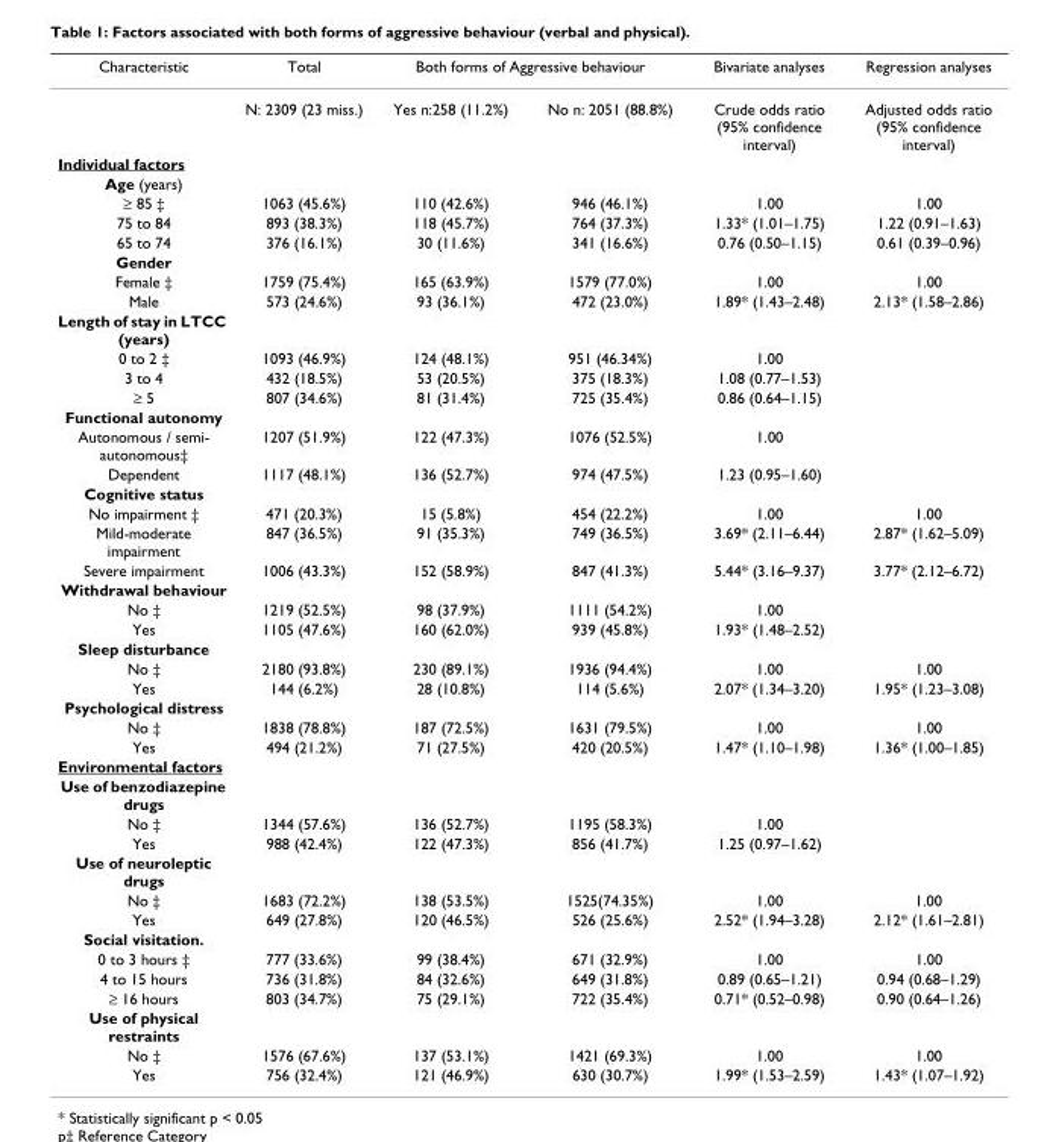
<table><thead><tr><td rowspan="2">Characteristic</td><td rowspan="2">Total N: 2309 (23 miss.)</td><td colspan="2">Both forms of Aggressive behaviour</td><td rowspan="2">Bivariate analyses Crude odds ratio (95% confidence interval)</td><td rowspan="2">Regression analyses Adjusted odds ratio (95% confidence interval)</td></tr><tr><td>Yes n:258 (11.2%)</td><td>No n: 2051 (88.8%)</td></tr></thead><tbody><tr><td colspan="6">Individual factors</td></tr><tr><td colspan="6">Age (years)</td></tr><tr><td>≥ 85 ‡</td><td>1063 (45.6%)</td><td>110 (42.6%)</td><td>946 (46.1%)</td><td>1.00</td><td>1.00</td></tr><tr><td>75 to 84</td><td>893 (38.3%)</td><td>118 (45.7%)</td><td>764 (37.3%)</td><td>1.33* (1.01–1.75)</td><td>1.22 (0.91–1.63)</td></tr><tr><td>65 to 74</td><td>376 (16.1%)</td><td>30 (11.6%)</td><td>341 (16.6%)</td><td>0.76 (0.50–1.15)</td><td>0.61 (0.39–0.96)</td></tr><tr><td colspan="6">Gender</td></tr><tr><td>Female ‡</td><td>1759 (75.4%)</td><td>165 (63.9%)</td><td>1579 (77.0%)</td><td>1.00</td><td>1.00</td></tr><tr><td>Male</td><td>573 (24.6%)</td><td>93 (36.1%)</td><td>472 (23.0%)</td><td>1.89* (1.43–2.48)</td><td>2.13* (1.58–2.86)</td></tr><tr><td colspan="6">Length of stay in LTCC (years)</td></tr><tr><td>0 to 2 ‡</td><td>1093 (46.9%)</td><td>124 (48.1%)</td><td>951 (46.34%)</td><td>1.00</td><td></td></tr><tr><td>3 to 4</td><td>432 (18.5%)</td><td>53 (20.5%)</td><td>375 (18.3%)</td><td>1.08 (0.77–1.53)</td><td></td></tr><tr><td>≥ 5</td><td>807 (34.6%)</td><td>81 (31.4%)</td><td>725 (35.4%)</td><td>0.86 (0.64–1.15)</td><td></td></tr><tr><td colspan="6">Functional autonomy</td></tr><tr><td>Autonomous / semi- autonomous‡</td><td>1207 (51.9%)</td><td>122 (47.3%)</td><td>1076 (52.5%)</td><td>1.00</td><td></td></tr><tr><td>Dependent</td><td>1117 (48.1%)</td><td>136 (52.7%)</td><td>974 (47.5%)</td><td>1.23 (0.95–1.60)</td><td></td></tr><tr><td colspan="6">Cognitive status</td></tr><tr><td>No impairment ‡</td><td>471 (20.3%)</td><td>15 (5.8%)</td><td>454 (22.2%)</td><td>1.00</td><td>1.00</td></tr><tr><td>Mild-moderate impairment</td><td>847 (36.5%)</td><td>91 (35.3%)</td><td>749 (36.5%)</td><td>3.69* (2.11–6.44)</td><td>2.87* (1.62–5.09)</td></tr><tr><td>Severe impairment</td><td>1006 (43.3%)</td><td>152 (58.9%)</td><td>847 (41.3%)</td><td>5.44* (3.16–9.37)</td><td>3.77* (2.12–6.72)</td></tr><tr><td colspan="6">Withdrawal behaviour</td></tr><tr><td>No ‡</td><td>1219 (52.5%)</td><td>98 (37.9%)</td><td>1111 (54.2%)</td><td>1.00</td><td></td></tr><tr><td>Yes</td><td>1105 (47.6%)</td><td>160 (62.0%)</td><td>939 (45.8%)</td><td>1.93* (1.48–2.52)</td><td></td></tr><tr><td colspan="6">Sleep disturbance</td></tr><tr><td>No ‡</td><td>2180 (93.8%)</td><td>230 (89.1%)</td><td>1936 (94.4%)</td><td>1.00</td><td>1.00</td></tr><tr><td>Yes</td><td>144 (6.2%)</td><td>28 (10.8%)</td><td>114 (5.6%)</td><td>2.07* (1.34–3.20)</td><td>1.95* (1.23–3.08)</td></tr><tr><td colspan="6">Psychological distress</td></tr><tr><td>No ‡</td><td>1838 (78.8%)</td><td>187 (72.5%)</td><td>1631 (79.5%)</td><td>1.00</td><td>1.00</td></tr><tr><td>Yes</td><td>494 (21.2%)</td><td>71 (27.5%)</td><td>420 (20.5%)</td><td>1.47* (1.10–1.98)</td><td>1.36* (1.00–1.85)</td></tr><tr><td colspan="6">Environmental factors</td></tr><tr><td colspan="6">Use of benzodiazepine drugs</td></tr><tr><td>No ‡</td><td>1344 (57.6%)</td><td>136 (52.7%)</td><td>1195 (58.3%)</td><td>1.00</td><td></td></tr><tr><td>Yes</td><td>988 (42.4%)</td><td>122 (47.3%)</td><td>856 (41.7%)</td><td>1.25 (0.97–1.62)</td><td></td></tr><tr><td colspan="6">Use of neuroleptic drugs</td></tr><tr><td>No ‡</td><td>1683 (72.2%)</td><td>138 (53.5%)</td><td>1525(74.35%)</td><td>1.00</td><td>1.00</td></tr><tr><td>Yes</td><td>649 (27.8%)</td><td>120 (46.5%)</td><td>526 (25.6%)</td><td>2.52* (1.94–3.28)</td><td>2.12* (1.61–2.81)</td></tr><tr><td colspan="6">Social visitation.</td></tr><tr><td>0 to 3 hours ‡</td><td>777 (33.6%)</td><td>99 (38.4%)</td><td>671 (32.9%)</td><td>1.00</td><td>1.00</td></tr><tr><td>4 to 15 hours</td><td>736 (31.8%)</td><td>84 (32.6%)</td><td>649 (31.8%)</td><td>0.89 (0.65–1.21)</td><td>0.94 (0.68–1.29)</td></tr><tr><td>≥ 16 hours</td><td>803 (34.7%)</td><td>75 (29.1%)</td><td>722 (35.4%)</td><td>0.71* (0.52–0.98)</td><td>0.90 (0.64–1.26)</td></tr><tr><td colspan="6">Use of physical restraints</td></tr><tr><td>No ‡</td><td>1576 (67.6%)</td><td>137 (53.1%)</td><td>1421 (69.3%)</td><td>1.00</td><td>1.00</td></tr><tr><td>Yes</td><td>756 (32.4%)</td><td>121 (46.9%)</td><td>630 (30.7%)</td><td>1.99* (1.53–2.59)</td><td>1.43* (1.07–1.92)</td></tr></tbody></table>